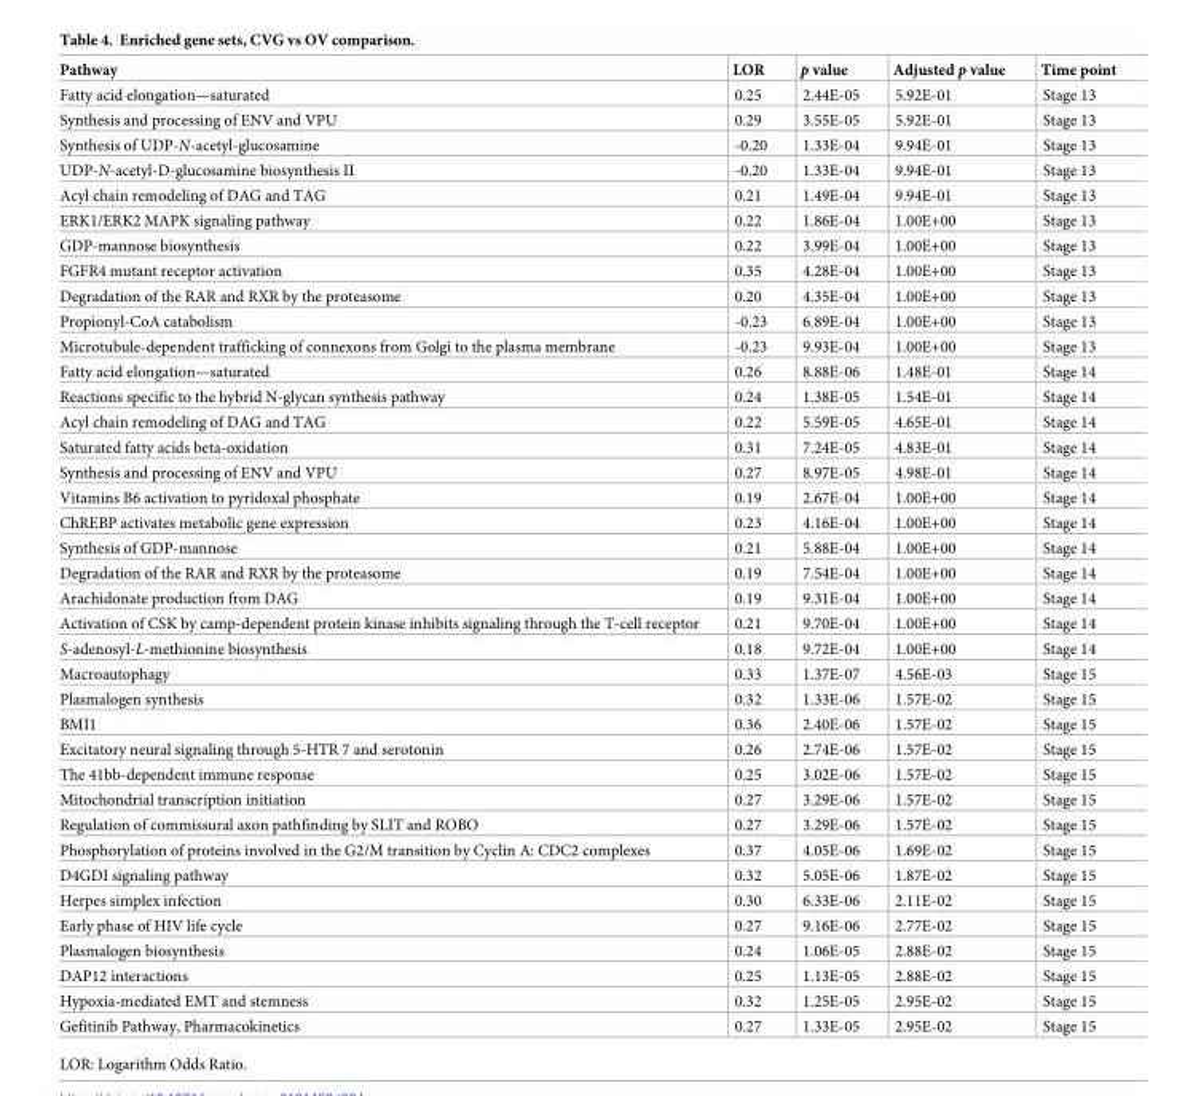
<table><thead><tr><td>Pathway</td><td>LOR</td><td>p value</td><td>Adjusted p value</td><td>Time point</td></tr></thead><tbody><tr><td>Fatty acid elongation—saturated</td><td>0.25</td><td>2.44E-05</td><td>5.92E-01</td><td>Stage 13</td></tr><tr><td>Synthesis and processing of ENV and VPU</td><td>0.29</td><td>3.55E-05</td><td>5.92E-01</td><td>Stage 13</td></tr><tr><td>Synthesis of UDP-N-acetyl-glucosamine</td><td>-0.20</td><td>1.33E-04</td><td>9.94E-01</td><td>Stage 13</td></tr><tr><td>UDP-N-acetyl-D-glucosamine biosynthesis II</td><td>-0.20</td><td>1.33E-04</td><td>9.94E-01</td><td>Stage 13</td></tr><tr><td>Acyl chain remodeling of DAG and TAG</td><td>0.21</td><td>1.49E-04</td><td>9.94E-01</td><td>Stage 13</td></tr><tr><td>ERK1/ERK2 MAPK signaling pathway</td><td>0.22</td><td>1.86E-04</td><td>1.00E+00</td><td>Stage 13</td></tr><tr><td>GDP-mannose biosynthesis</td><td>0.22</td><td>3.99E-04</td><td>1.00E+00</td><td>Stage 13</td></tr><tr><td>FGFR4 mutant receptor activation</td><td>0.35</td><td>4.28E-04</td><td>1.00E+00</td><td>Stage 13</td></tr><tr><td>Degradation of the RAR and RXR by the proteasome</td><td>0.20</td><td>4.35E-04</td><td>1.00E+00</td><td>Stage 13</td></tr><tr><td>Propionyl-CoA catabolism</td><td>-0.23</td><td>6.89E-04</td><td>1.00E+00</td><td>Stage 13</td></tr><tr><td>Microtubule-dependent trafficking of connexons from Golgi to the plasma membrane</td><td>-0.23</td><td>9.93E-04</td><td>1.00E+00</td><td>Stage 13</td></tr><tr><td>Fatty acid elongation—saturated</td><td>0.26</td><td>8.88E-06</td><td>1.48E-01</td><td>Stage 14</td></tr><tr><td>Reactions specific to the hybrid N-glycan synthesis pathway</td><td>0.24</td><td>1.38E-05</td><td>1.54E-01</td><td>Stage 14</td></tr><tr><td>Acyl chain remodeling of DAG and TAG</td><td>0.22</td><td>5.59E-05</td><td>4.65E-01</td><td>Stage 14</td></tr><tr><td>Saturated fatty acids beta-oxidation</td><td>0.31</td><td>7.24E-05</td><td>4.83E-01</td><td>Stage 14</td></tr><tr><td>Synthesis and processing of ENV and VPU</td><td>0.27</td><td>8.97E-05</td><td>4.98E-01</td><td>Stage 14</td></tr><tr><td>Vitamins B6 activation to pyridoxal phosphate</td><td>0.19</td><td>2.67E-04</td><td>1.00E+00</td><td>Stage 14</td></tr><tr><td>ChREBP activates metabolic gene expression</td><td>0.23</td><td>4.16E-04</td><td>1.00E+00</td><td>Stage 14</td></tr><tr><td>Synthesis of GDP-mannose</td><td>0.21</td><td>5.88E-04</td><td>1.00E+00</td><td>Stage 14</td></tr><tr><td>Degradation of the RAR and RXR by the proteasome</td><td>0.19</td><td>7.54E-04</td><td>1.00E+00</td><td>Stage 14</td></tr><tr><td>Arachidonate production from DAG</td><td>0.19</td><td>9.31E-04</td><td>1.00E+00</td><td>Stage 14</td></tr><tr><td>Activation of CSK by camp-dependent protein kinase inhibits signaling through the T-cell receptor</td><td>0.21</td><td>9.70E-04</td><td>1.00E+00</td><td>Stage 14</td></tr><tr><td>S-adenosyl-L-methionine biosynthesis</td><td>0.18</td><td>9.72E-04</td><td>1.00E+00</td><td>Stage 14</td></tr><tr><td>Macroautophagy</td><td>0.33</td><td>1.37E-07</td><td>4.56E-03</td><td>Stage 15</td></tr><tr><td>Plasmalogen synthesis</td><td>0.32</td><td>1.33E-06</td><td>1.57E-02</td><td>Stage 15</td></tr><tr><td>BMI1</td><td>0.36</td><td>2.40E-06</td><td>1.57E-02</td><td>Stage 15</td></tr><tr><td>Excitatory neural signaling through 5-HTR 7 and serotonin</td><td>0.26</td><td>2.74E-06</td><td>1.57E-02</td><td>Stage 15</td></tr><tr><td>The 41bb-dependent immune response</td><td>0.25</td><td>3.02E-06</td><td>1.57E-02</td><td>Stage 15</td></tr><tr><td>Mitochondrial transcription initiation</td><td>0.27</td><td>3.29E-06</td><td>1.57E-02</td><td>Stage 15</td></tr><tr><td>Regulation of commissural axon pathfinding by SLIT and ROBO</td><td>0.27</td><td>3.29E-06</td><td>1.57E-02</td><td>Stage 15</td></tr><tr><td>Phosphorylation of proteins involved in the G2/M transition by Cyclin A: CDC2 complexes</td><td>0.37</td><td>4.05E-06</td><td>1.69E-02</td><td>Stage 15</td></tr><tr><td>D4GDI signaling pathway</td><td>0.32</td><td>5.05E-06</td><td>1.87E-02</td><td>Stage 15</td></tr><tr><td>Herpes simplex infection</td><td>0.30</td><td>6.33E-06</td><td>2.11E-02</td><td>Stage 15</td></tr><tr><td>Early phase of HIV life cycle</td><td>0.27</td><td>9.16E-06</td><td>2.77E-02</td><td>Stage 15</td></tr><tr><td>Plasmalogen biosynthesis</td><td>0.24</td><td>1.06E-05</td><td>2.88E-02</td><td>Stage 15</td></tr><tr><td>DAP12 interactions</td><td>0.25</td><td>1.13E-05</td><td>2.88E-02</td><td>Stage 15</td></tr><tr><td>Hypoxia-mediated EMT and stemness</td><td>0.32</td><td>1.25E-05</td><td>2.95E-02</td><td>Stage 15</td></tr><tr><td>Gefitinib Pathway, Pharmacokinetics</td><td>0.27</td><td>1.33E-05</td><td>2.95E-02</td><td>Stage 15</td></tr></tbody></table>